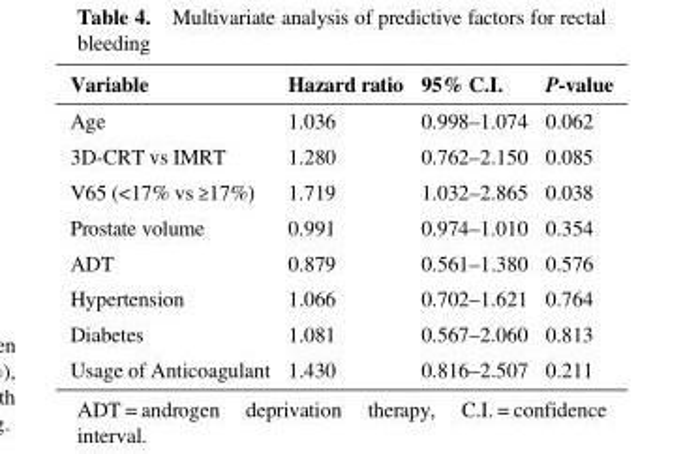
<table><thead><tr><td>Variable</td><td>Hazard ratio</td><td>95% C.I.</td><td>P-value</td></tr></thead><tbody><tr><td>Age</td><td>1.036</td><td>0.998–1.074</td><td>0.062</td></tr><tr><td>3D-CRT vs IMRT</td><td>1.280</td><td>0.762–2.150</td><td>0.085</td></tr><tr><td>V65 (&lt;17% vs ≥17%)</td><td>1.719</td><td>1.032–2.865</td><td>0.038</td></tr><tr><td>Prostate volume</td><td>0.991</td><td>0.974–1.010</td><td>0.354</td></tr><tr><td>ADT</td><td>0.879</td><td>0.561–1.380</td><td>0.576</td></tr><tr><td>Hypertension</td><td>1.066</td><td>0.702–1.621</td><td>0.764</td></tr><tr><td>Diabetes</td><td>1.081</td><td>0.567–2.060</td><td>0.813</td></tr><tr><td>Usage of Anticoagulant</td><td>1.430</td><td>0.816–2.507</td><td>0.211</td></tr></tbody></table>